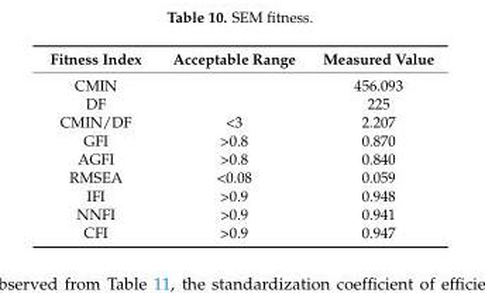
<table><thead><tr><td>Fitness Index</td><td>Acceptable Range</td><td>Measured Value</td></tr></thead><tbody><tr><td>CMIN</td><td></td><td>456.093</td></tr><tr><td>DF</td><td></td><td>225</td></tr><tr><td>CMIN/DF</td><td>&lt;3</td><td>2.207</td></tr><tr><td>GFI</td><td>&gt;0.8</td><td>0.870</td></tr><tr><td>AGFI</td><td>&gt;0.8</td><td>0.840</td></tr><tr><td>RMSEA</td><td>&lt;0.08</td><td>0.059</td></tr><tr><td>IFI</td><td>&gt;0.9</td><td>0.948</td></tr><tr><td>NNFI</td><td>&gt;0.9</td><td>0.941</td></tr><tr><td>CFI</td><td>&gt;0.9</td><td>0.947</td></tr></tbody></table>